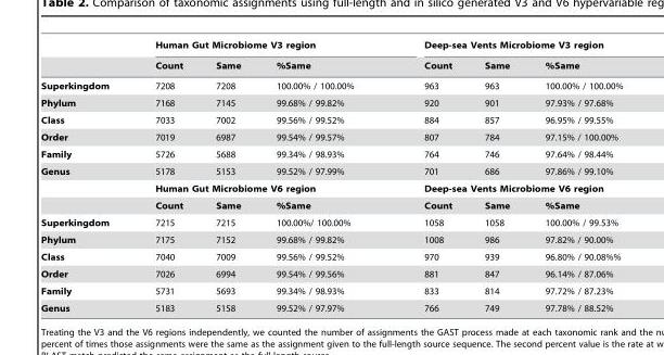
<table><thead><tr><td rowspan="2"></td><td colspan="3">Human Gut Microbiome V3 region</td><td colspan="3">Deep-sea Vents Microbiome V3 region</td></tr><tr><td>Count</td><td>Same</td><td>%Same</td><td>Count</td><td>Same</td><td>%Same</td></tr></thead><tbody><tr><td>Superkingdom</td><td>7208</td><td>7208</td><td>100.00% / 100.00%</td><td>963</td><td>963</td><td>100.00% / 100.00%</td></tr><tr><td>Phylum</td><td>7168</td><td>7145</td><td>99.68% / 99.82%</td><td>920</td><td>901</td><td>97.93% / 97.68%</td></tr><tr><td>Class</td><td>7033</td><td>7002</td><td>99.56% / 99.52%</td><td>884</td><td>857</td><td>96.95% / 99.55%</td></tr><tr><td>Order</td><td>7019</td><td>6987</td><td>99.54% / 99.57%</td><td>807</td><td>784</td><td>97.15% / 100.00%</td></tr><tr><td>Family</td><td>5726</td><td>5688</td><td>99.34% / 98.93%</td><td>764</td><td>746</td><td>97.64% / 98.44%</td></tr><tr><td rowspan="3">Genus</td><td>5178</td><td>5153</td><td>99.52% / 97.99%</td><td>701</td><td>686</td><td>97.86% / 99.10%</td></tr><tr><td colspan="3">Human Gut Microbiome V6 region</td><td colspan="3">Deep-sea Vents Microbiome V6 region</td></tr><tr><td>Count</td><td>Same</td><td>%Same</td><td>Count</td><td>Same</td><td>%Same</td></tr><tr><td>Superkingdom</td><td>7215</td><td>7215</td><td>100.00%/ 100.00%</td><td>1058</td><td>1058</td><td>100.00% / 99.53%</td></tr><tr><td>Phylum</td><td>7175</td><td>7152</td><td>99.68% / 99.82%</td><td>1008</td><td>986</td><td>97.82% / 90.00%</td></tr><tr><td>Class</td><td>7040</td><td>7009</td><td>99.56% / 99.52%</td><td>970</td><td>939</td><td>96.80% / 90.08%%</td></tr><tr><td>Order</td><td>7026</td><td>6994</td><td>99.54% / 99.56%</td><td>881</td><td>847</td><td>96.14% / 87.06%</td></tr><tr><td>Family</td><td>5731</td><td>5693</td><td>99.34% / 98.93%</td><td>833</td><td>814</td><td>97.72% / 87.23%</td></tr><tr><td>Genus</td><td>5183</td><td>5158</td><td>99.52% / 97.97%</td><td>766</td><td>749</td><td>97.78% / 88.52%</td></tr></tbody></table>